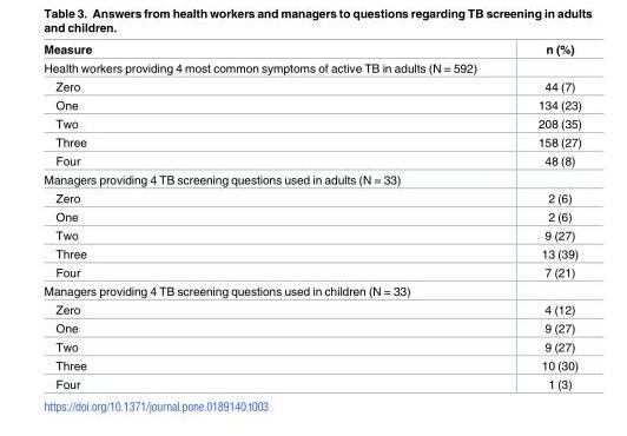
<table><thead><tr><td>Measure</td><td>n (%)</td></tr></thead><tbody><tr><td colspan="2">Health workers providing 4 most common symptoms of active TB in adults (N = 592)</td></tr><tr><td>Zero</td><td>44 (7)</td></tr><tr><td>One</td><td>134 (23)</td></tr><tr><td>Two</td><td>208 (35)</td></tr><tr><td>Three</td><td>158 (27)</td></tr><tr><td>Four</td><td>48 (8)</td></tr><tr><td colspan="2">Managers providing 4 TB screening questions used in adults (N = 33)</td></tr><tr><td>Zero</td><td>2 (6)</td></tr><tr><td>One</td><td>2 (6)</td></tr><tr><td>Two</td><td>9 (27)</td></tr><tr><td>Three</td><td>13 (39)</td></tr><tr><td>Four</td><td>7 (21)</td></tr><tr><td colspan="2">Managers providing 4 TB screening questions used in children (N = 33)</td></tr><tr><td>Zero</td><td>4 (12)</td></tr><tr><td>One</td><td>9 (27)</td></tr><tr><td>Two</td><td>9 (27)</td></tr><tr><td>Three</td><td>10 (30)</td></tr><tr><td>Four</td><td>1 (3)</td></tr></tbody></table>